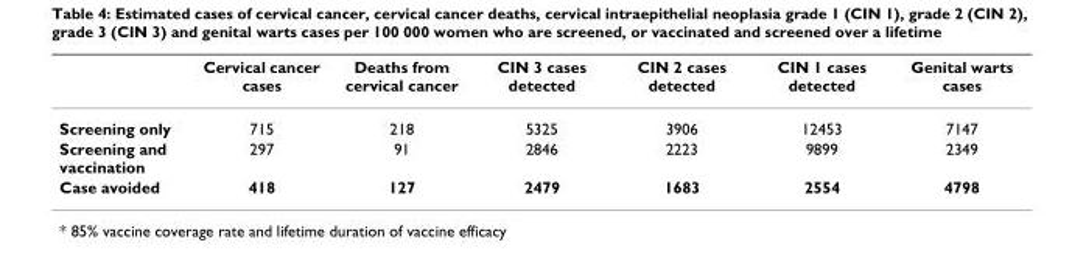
<table><thead><tr><td></td><td>Cervical cancer cases</td><td>Deaths from cervical cancer</td><td>CIN 3 cases detected</td><td>CIN 2 cases detected</td><td>CIN 1 cases detected</td><td>Genital warts cases</td></tr></thead><tbody><tr><td>Screening only</td><td>715</td><td>218</td><td>5325</td><td>3906</td><td>12453</td><td>7147</td></tr><tr><td>Screening and vaccination</td><td>297</td><td>91</td><td>2846</td><td>2223</td><td>9899</td><td>2349</td></tr><tr><td>Case avoided</td><td>418</td><td>127</td><td>2479</td><td>1683</td><td>2554</td><td>4798</td></tr></tbody></table>